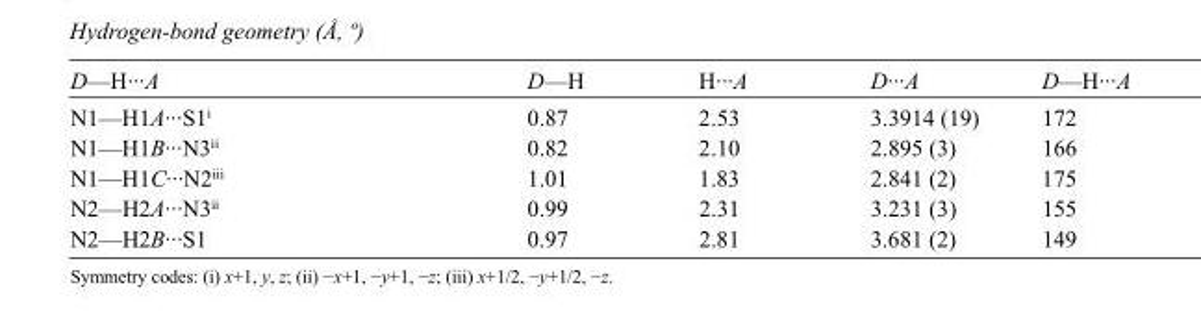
<table><tbody><tr><td>D—H···A</td><td>D—H</td><td>H···A</td><td>D···A</td><td>D—H···A</td></tr><tr><td>N1—H1A···S1<sup>i</sup></td><td>0.87</td><td>2.53</td><td>3.3914 (19)</td><td>172</td></tr><tr><td>N1—H1B···N3<sup>ii</sup></td><td>0.82</td><td>2.10</td><td>2.895 (3)</td><td>166</td></tr><tr><td>N1—H1C···N2<sup>iii</sup></td><td>1.01</td><td>1.83</td><td>2.841 (2)</td><td>175</td></tr><tr><td>N2—H2A···N3<sup>ii</sup></td><td>0.99</td><td>2.31</td><td>3.231 (3)</td><td>155</td></tr><tr><td>N2—H2B···S1</td><td>0.97</td><td>2.81</td><td>3.681 (2)</td><td>149</td></tr></tbody></table>